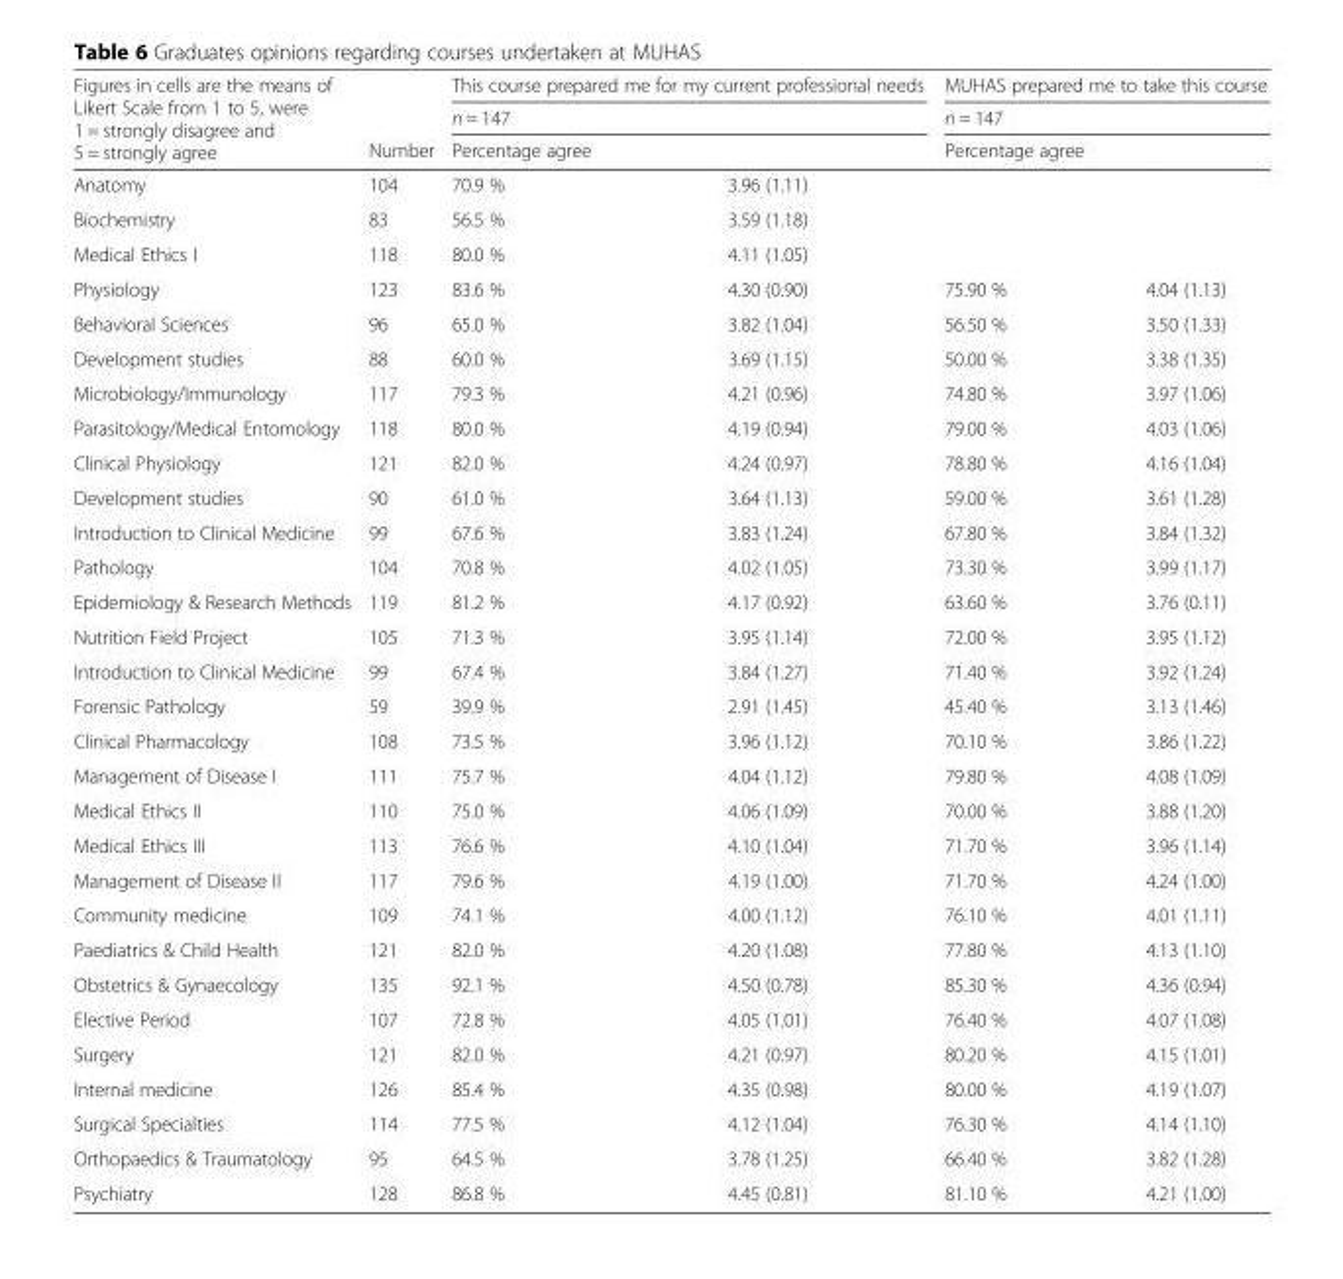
<table><thead><tr><td rowspan="3">Figures in cells are the means of Likert Scale from 1 to 5, were 1 = strongly disagree and 5 = strongly agree</td><td rowspan="3">Number</td><td rowspan="2" colspan="2">This course prepared me for my current professional needs n = 147</td><td rowspan="2" colspan="2">MUHAS prepared me to take this course n = 147</td></tr><tr></tr><tr><td>Percentage agree</td><td></td><td>Percentage agree</td><td></td></tr></thead><tbody><tr><td>Anatomy</td><td>104</td><td>70.9 %</td><td>3.96 (1.11)</td><td></td><td></td></tr><tr><td>Biochemistry</td><td>83</td><td>56.5 %</td><td>3.59 (1.18)</td><td></td><td></td></tr><tr><td>Medical Ethics I</td><td>118</td><td>80.0 %</td><td>4.11 (1.05)</td><td></td><td></td></tr><tr><td>Physiology</td><td>123</td><td>83.6 %</td><td>4.30 (0.90)</td><td>75.90 %</td><td>4.04 (1.13)</td></tr><tr><td>Behavioral Sciences</td><td>96</td><td>65.0 %</td><td>3.82 (1.04)</td><td>56.50 %</td><td>3.50 (1.33)</td></tr><tr><td>Development studies</td><td>88</td><td>60.0 %</td><td>3.69 (1.15)</td><td>50.00 %</td><td>3.38 (1.35)</td></tr><tr><td>Microbiology/Immunology</td><td>117</td><td>79.3 %</td><td>4.21 (0.96)</td><td>74.80 %</td><td>3.97 (1.06)</td></tr><tr><td>Parasitology/Medical Entomology</td><td>118</td><td>80.0 %</td><td>4.19 (0.94)</td><td>79.00 %</td><td>4.03 (1.06)</td></tr><tr><td>Clinical Physiology</td><td>121</td><td>82.0 %</td><td>4.24 (0.97)</td><td>78.80 %</td><td>4.16 (1.04)</td></tr><tr><td>Development studies</td><td>90</td><td>61.0 %</td><td>3.64 (1.13)</td><td>59.00 %</td><td>3.61 (1.28)</td></tr><tr><td>Introduction to Clinical Medicine</td><td>99</td><td>67.6 %</td><td>3.83 (1.24)</td><td>67.80 %</td><td>3.84 (1.32)</td></tr><tr><td>Pathology</td><td>104</td><td>70.8 %</td><td>4.02 (1.05)</td><td>73.30 %</td><td>3.99 (1.17)</td></tr><tr><td>Epidemiology &amp; Research Methods</td><td>119</td><td>81.2 %</td><td>4.17 (0.92)</td><td>63.60 %</td><td>3.76 (0.11)</td></tr><tr><td>Nutrition Field Project</td><td>105</td><td>71.3 %</td><td>3.95 (1.14)</td><td>72.00 %</td><td>3.95 (1.12)</td></tr><tr><td>Introduction to Clinical Medicine</td><td>99</td><td>67.4 %</td><td>3.84 (1.27)</td><td>71.40 %</td><td>3.92 (1.24)</td></tr><tr><td>Forensic Pathology</td><td>59</td><td>39.9 %</td><td>2.91 (1.45)</td><td>45.40 %</td><td>3.13 (1.46)</td></tr><tr><td>Clinical Pharmacology</td><td>108</td><td>73.5 %</td><td>3.96 (1.12)</td><td>70.10 %</td><td>3.86 (1.22)</td></tr><tr><td>Management of Disease I</td><td>111</td><td>75.7 %</td><td>4.04 (1.12)</td><td>79.80 %</td><td>4.08 (1.09)</td></tr><tr><td>Medical Ethics II</td><td>110</td><td>75.0 %</td><td>4.06 (1.09)</td><td>70.00 %</td><td>3.88 (1.20)</td></tr><tr><td>Medical Ethics III</td><td>113</td><td>76.6 %</td><td>4.10 (1.04)</td><td>71.70 %</td><td>3.96 (1.14)</td></tr><tr><td>Management of Disease II</td><td>117</td><td>79.6 %</td><td>4.19 (1.00)</td><td>71.70 %</td><td>4.24 (1.00)</td></tr><tr><td>Community medicine</td><td>109</td><td>74.1 %</td><td>4.00 (1.12)</td><td>76.10 %</td><td>4.01 (1.11)</td></tr><tr><td>Paediatrics &amp; Child Health</td><td>121</td><td>82.0 %</td><td>4.20 (1.08)</td><td>77.80 %</td><td>4.13 (1.10)</td></tr><tr><td>Obstetrics &amp; Gynaecology</td><td>135</td><td>92.1 %</td><td>4.50 (0.78)</td><td>85.30 %</td><td>4.36 (0.94)</td></tr><tr><td>Elective Period</td><td>107</td><td>72.8 %</td><td>4.05 (1.01)</td><td>76.40 %</td><td>4.07 (1.08)</td></tr><tr><td>Surgery</td><td>121</td><td>82.0 %</td><td>4.21 (0.97)</td><td>80.20 %</td><td>4.15 (1.01)</td></tr><tr><td>Internal medicine</td><td>126</td><td>85.4 %</td><td>4.35 (0.98)</td><td>80.00 %</td><td>4.19 (1.07)</td></tr><tr><td>Surgical Specialties</td><td>114</td><td>77.5 %</td><td>4.12 (1.04)</td><td>76.30 %</td><td>4.14 (1.10)</td></tr><tr><td>Orthopaedics &amp; Traumatology</td><td>95</td><td>64.5 %</td><td>3.78 (1.25)</td><td>66.40 %</td><td>3.82 (1.28)</td></tr><tr><td>Psychiatry</td><td>128</td><td>86.8 %</td><td>4.45 (0.81)</td><td>81.10 %</td><td>4.21 (1.00)</td></tr></tbody></table>